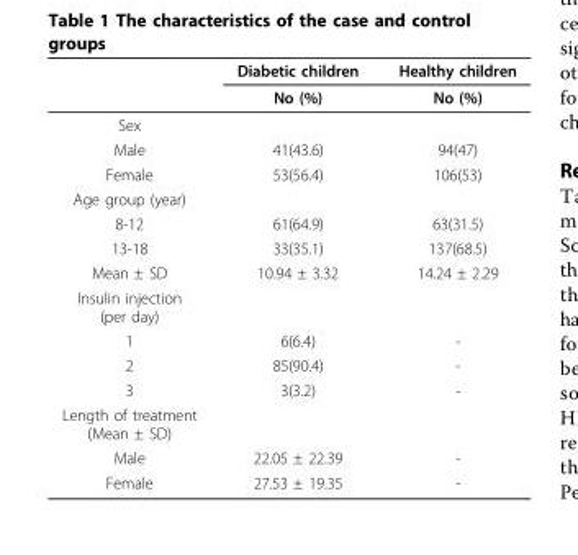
<table><thead><tr><td rowspan="2"></td><td rowspan="2">Diabetic children No (%)</td><td rowspan="2">Healthy children No (%)</td></tr><tr></tr></thead><tbody><tr><td colspan="3">Sex</td></tr><tr><td>Male</td><td>41(43.6)</td><td>94(47)</td></tr><tr><td>Female</td><td>53(56.4)</td><td>106(53)</td></tr><tr><td colspan="3">Age group (year)</td></tr><tr><td>8-12</td><td>61(64.9)</td><td>63(31.5)</td></tr><tr><td>13-18</td><td>33(35.1)</td><td>137(68.5)</td></tr><tr><td>Mean ± SD</td><td>10.94 ± 3.32</td><td>14.24 ± 2.29</td></tr><tr><td colspan="3">Insulin injection (per day)</td></tr><tr><td>1</td><td>6(6.4)</td><td>-</td></tr><tr><td>2</td><td>85(90.4)</td><td>-</td></tr><tr><td>3</td><td>3(3.2)</td><td>-</td></tr><tr><td colspan="3">Length of treatment (Mean ± SD)</td></tr><tr><td>Male</td><td>22.05 ± 22.39</td><td>-</td></tr><tr><td>Female</td><td>27.53 ± 19.35</td><td>-</td></tr></tbody></table>